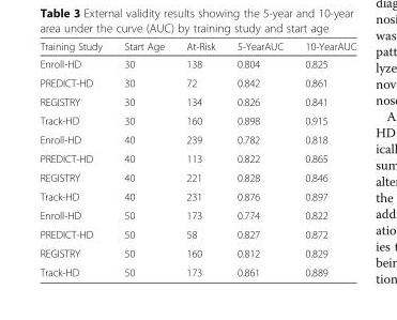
<table><thead><tr><td>Training Study</td><td>Start Age</td><td>At-Risk</td><td>5-YearAUC</td><td>10-YearAUC</td></tr></thead><tbody><tr><td>Enroll-HD</td><td>30</td><td>138</td><td>0.804</td><td>0.825</td></tr><tr><td>PREDICT-HD</td><td>30</td><td>72</td><td>0.842</td><td>0.861</td></tr><tr><td>REGISTRY</td><td>30</td><td>134</td><td>0.826</td><td>0.841</td></tr><tr><td>Track-HD</td><td>30</td><td>160</td><td>0.898</td><td>0.915</td></tr><tr><td>Enroll-HD</td><td>40</td><td>239</td><td>0.782</td><td>0.818</td></tr><tr><td>PREDICT-HD</td><td>40</td><td>113</td><td>0.822</td><td>0.865</td></tr><tr><td>REGISTRY</td><td>40</td><td>221</td><td>0.828</td><td>0.846</td></tr><tr><td>Track-HD</td><td>40</td><td>231</td><td>0.876</td><td>0.897</td></tr><tr><td>Enroll-HD</td><td>50</td><td>173</td><td>0.774</td><td>0.822</td></tr><tr><td>PREDICT-HD</td><td>50</td><td>58</td><td>0.827</td><td>0.872</td></tr><tr><td>REGISTRY</td><td>50</td><td>160</td><td>0.812</td><td>0.829</td></tr><tr><td>Track-HD</td><td>50</td><td>173</td><td>0.861</td><td>0.889</td></tr></tbody></table>